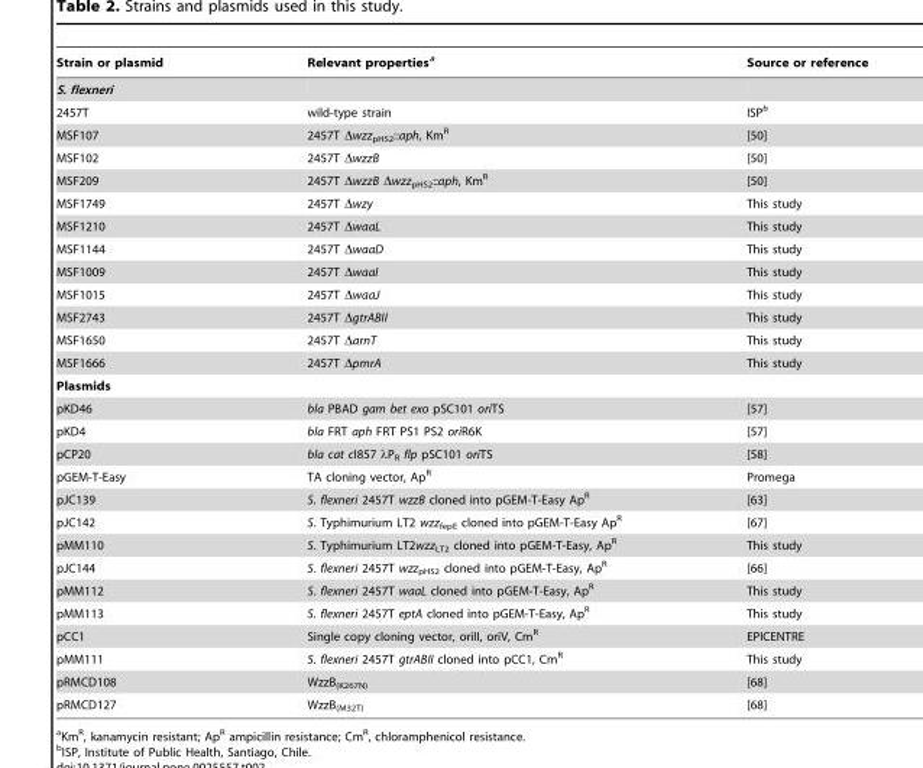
<table><thead><tr><td>Strain or plasmid</td><td>Relevant properties<sup>a</sup></td><td>Source or reference</td></tr></thead><tbody><tr><td colspan="3">S. flexneri</td></tr><tr><td>2457T</td><td>wild-type strain</td><td>ISP<sup>b</sup></td></tr><tr><td>MSF107</td><td>2457T Δwzz<sub>pHS2</sub>::aph, Km<sup>R</sup></td><td>[50]</td></tr><tr><td>MSF102</td><td>2457T ΔwzzB</td><td>[50]</td></tr><tr><td>MSF209</td><td>2457T ΔwzzB Δwzz<sub>pHS2</sub>::aph, Km<sup>R</sup></td><td>[50]</td></tr><tr><td>MSF1749</td><td>2457T Δwzy</td><td>This study</td></tr><tr><td>MSF1210</td><td>2457T ΔwaaL</td><td>This study</td></tr><tr><td>MSF1144</td><td>2457T ΔwaaD</td><td>This study</td></tr><tr><td>MSF1009</td><td>2457T ΔwaaI</td><td>This study</td></tr><tr><td>MSF1015</td><td>2457T ΔwaaJ</td><td>This study</td></tr><tr><td>MSF2743</td><td>2457T ΔgtrABII</td><td>This study</td></tr><tr><td>MSF1650</td><td>2457T ΔarnT</td><td>This study</td></tr><tr><td>MSF1666</td><td>2457T ΔpmrA</td><td>This study</td></tr><tr><td colspan="3">Plasmids</td></tr><tr><td>pKD46</td><td>bla PBAD gam bet exo pSC101 oriTS</td><td>[57]</td></tr><tr><td>pKD4</td><td>bla FRT aph FRT PS1 PS2 oriR6K</td><td>[57]</td></tr><tr><td>pCP20</td><td>bla cat cI857 λP<sub>R</sub> flp pSC101 oriTS</td><td>[58]</td></tr><tr><td>pGEM-T-Easy</td><td>TA cloning vector, Ap<sup>R</sup></td><td>Promega</td></tr><tr><td>pJC139</td><td>S. flexneri 2457T wzzB cloned into pGEM-T-Easy Ap<sup>R</sup></td><td>[63]</td></tr><tr><td>pJC142</td><td>S. Typhimurium LT2 wzz<sub>fepE</sub> cloned into pGEM-T-Easy Ap<sup>R</sup></td><td>[67]</td></tr><tr><td>pMM110</td><td>S. Typhimurium LT2wzz<sub>LT2</sub> cloned into pGEM-T-Easy, Ap<sup>R</sup></td><td>This study</td></tr><tr><td>pJC144</td><td>S. flexneri 2457T wzz<sub>pHS2</sub> cloned into pGEM-T-Easy, Ap<sup>R</sup></td><td>[66]</td></tr><tr><td>pMM112</td><td>S. flexneri 2457T waaL cloned into pGEM-T-Easy, Ap<sup>R</sup></td><td>This study</td></tr><tr><td>pMM113</td><td>S. flexneri 2457T eptA cloned into pGEM-T-Easy, Ap<sup>R</sup></td><td>This study</td></tr><tr><td>pCC1</td><td>Single copy cloning vector, oriII, oriV, Cm<sup>R</sup></td><td>EPICENTRE</td></tr><tr><td>pMM111</td><td>S. flexneri 2457T gtrABII cloned into pCC1, Cm<sup>R</sup></td><td>This study</td></tr><tr><td>pRMCD108</td><td>WzzB<sub>(K267N)</sub></td><td>[68]</td></tr><tr><td>pRMCD127</td><td>WzzB<sub>(M32T)</sub></td><td>[68]</td></tr></tbody></table>